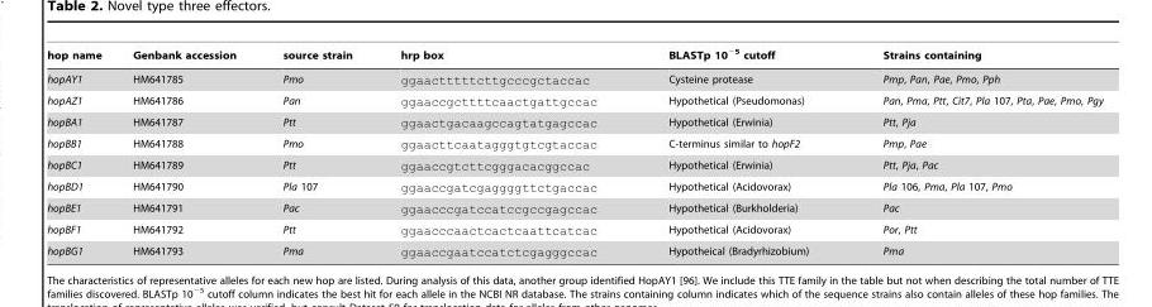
<table><thead><tr><td>hop name</td><td>Genbank accession</td><td>source strain</td><td>hrp box</td><td>BLASTp 10<sup>−5</sup> cutoff</td><td>Strains containing</td></tr></thead><tbody><tr><td>hopAY1</td><td>HM641785</td><td>Pmo</td><td>ggaactttttcttgcccgctaccac</td><td>Cysteine protease</td><td>Pmp, Pan, Pae, Pmo, Pph</td></tr><tr><td>hopAZ1</td><td>HM641786</td><td>Pan</td><td>ggaaccgcttttcaactgattgccac</td><td>Hypothetical (Pseudomonas)</td><td>Pan, Pma, Ptt, Cit7, Pla 107, Pta, Pae, Pmo, Pgy</td></tr><tr><td>hopBA1</td><td>HM641787</td><td>Ptt</td><td>ggaactgacaagccagtatgagccac</td><td>Hypothetical (Erwinia)</td><td>Ptt, Pja</td></tr><tr><td>hopBB1</td><td>HM641788</td><td>Pmo</td><td>ggaacttcaatagggtgtcgtaccac</td><td>C-terminus similar to hopF2</td><td>Pmp, Pae</td></tr><tr><td>hopBC1</td><td>HM641789</td><td>Ptt</td><td>ggaaccgtcttcgggacacggccac</td><td>Hypothetical (Erwinia)</td><td>Ptt, Pja, Pac</td></tr><tr><td>hopBD1</td><td>HM641790</td><td>Pla 107</td><td>ggaaccgatcgaggggttctgaccac</td><td>Hypothetical (Acidovorax)</td><td>Pla 106, Pma, Pla 107, Pmo</td></tr><tr><td>hopBE1</td><td>HM641791</td><td>Pac</td><td>ggaacccgatccatccgccgagccac</td><td>Hypothetical (Burkholderia)</td><td>Pac</td></tr><tr><td>hopBF1</td><td>HM641792</td><td>Ptt</td><td>ggaacccaactcactcaattcatcac</td><td>Hypothetical (Acidovorax)</td><td>Por, Ptt</td></tr><tr><td>hopBG1</td><td>HM641793</td><td>Pma</td><td>ggaaccgaatccatctcgagggccac</td><td>Hypotheical (Bradyrhizobium)</td><td>Pma</td></tr></tbody></table>